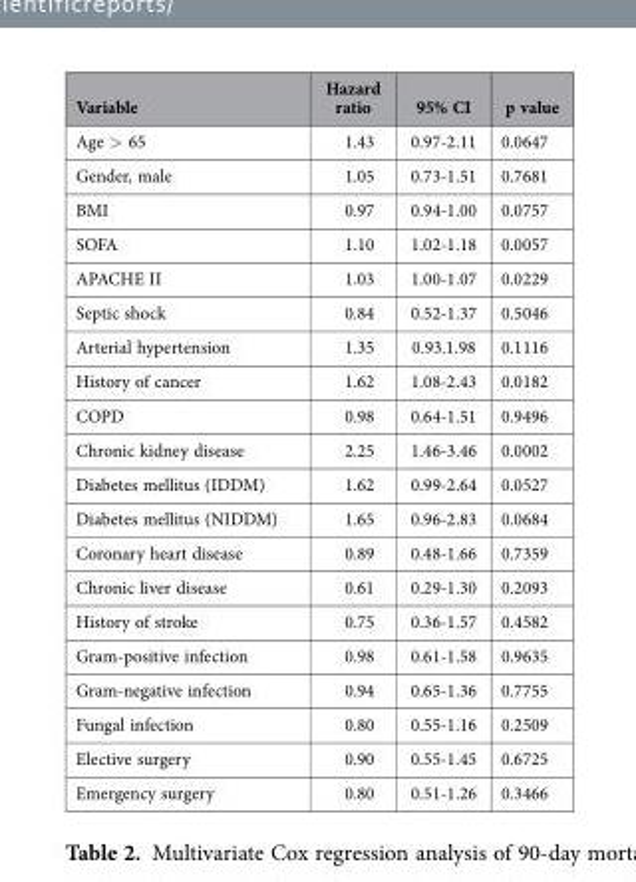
<table><thead><tr><td>Variable</td><td>Hazard ratio</td><td>95% CI</td><td>p value</td></tr></thead><tbody><tr><td>Age &gt; 65</td><td>1.43</td><td>0.97-2.11</td><td>0.0647</td></tr><tr><td>Gender, male</td><td>1.05</td><td>0.73-1.51</td><td>0.7681</td></tr><tr><td>BMI</td><td>0.97</td><td>0.94-1.00</td><td>0.0757</td></tr><tr><td>SOFA</td><td>1.10</td><td>1.02-1.18</td><td>0.0057</td></tr><tr><td>APACHE II</td><td>1.03</td><td>1.00-1.07</td><td>0.0229</td></tr><tr><td>Septic shock</td><td>0.84</td><td>0.52-1.37</td><td>0.5046</td></tr><tr><td>Arterial hypertension</td><td>1.35</td><td>0.93.1.98</td><td>0.1116</td></tr><tr><td>History of cancer</td><td>1.62</td><td>1.08-2.43</td><td>0.0182</td></tr><tr><td>COPD</td><td>0.98</td><td>0.64-1.51</td><td>0.9496</td></tr><tr><td>Chronic kidney disease</td><td>2.25</td><td>1.46-3.46</td><td>0.0002</td></tr><tr><td>Diabetes mellitus (IDDM)</td><td>1.62</td><td>0.99-2.64</td><td>0.0527</td></tr><tr><td>Diabetes mellitus (NIDDM)</td><td>1.65</td><td>0.96-2.83</td><td>0.0684</td></tr><tr><td>Coronary heart disease</td><td>0.89</td><td>0.48-1.66</td><td>0.7359</td></tr><tr><td>Chronic liver disease</td><td>0.61</td><td>0.29-1.30</td><td>0.2093</td></tr><tr><td>History of stroke</td><td>0.75</td><td>0.36-1.57</td><td>0.4582</td></tr><tr><td>Gram-positive infection</td><td>0.98</td><td>0.61-1.58</td><td>0.9635</td></tr><tr><td>Gram-negative infection</td><td>0.94</td><td>0.65-1.36</td><td>0.7755</td></tr><tr><td>Fungal infection</td><td>0.80</td><td>0.55-1.16</td><td>0.2509</td></tr><tr><td>Elective surgery</td><td>0.90</td><td>0.55-1.45</td><td>0.6725</td></tr><tr><td>Emergency surgery</td><td>0.80</td><td>0.51-1.26</td><td>0.3466</td></tr></tbody></table>